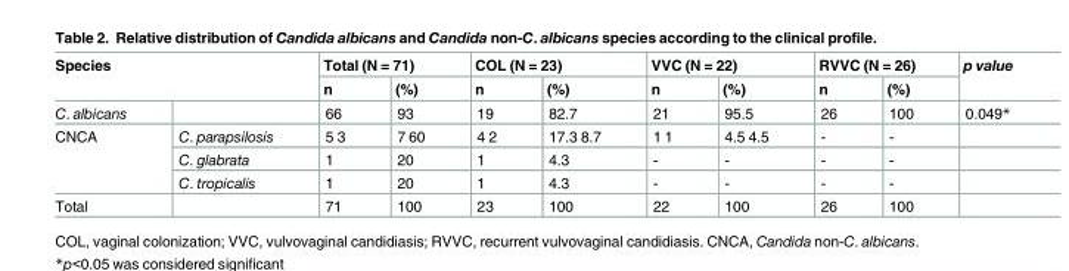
<table><thead><tr><td rowspan="2" colspan="2">Species</td><td colspan="2">Total (N = 71)</td><td colspan="2">COL (N = 23)</td><td colspan="2">VVC (N = 22)</td><td colspan="2">RVVC (N = 26)</td><td rowspan="3">p value 0.049*</td></tr><tr><td rowspan="2">n 66</td><td rowspan="2">(%) 93</td><td rowspan="2">n 19</td><td rowspan="2">(%) 82.7</td><td rowspan="2">n 21</td><td rowspan="2">(%) 95.5</td><td rowspan="2">n 26</td><td rowspan="2">(%) 100</td></tr><tr><td>C. albicans</td><td></td></tr></thead><tbody><tr><td rowspan="3">CNCA</td><td>C. parapsilosis</td><td>5 3</td><td>7 60</td><td>4 2</td><td>17.3 8.7</td><td>1 1</td><td>4.5 4.5</td><td>-</td><td>-</td><td></td></tr><tr><td>C. glabrata</td><td>1</td><td>20</td><td>1</td><td>4.3</td><td>-</td><td>-</td><td>-</td><td>-</td><td></td></tr><tr><td>C. tropicalis</td><td>1</td><td>20</td><td>1</td><td>4.3</td><td>-</td><td>-</td><td>-</td><td>-</td><td></td></tr><tr><td>Total</td><td></td><td>71</td><td>100</td><td>23</td><td>100</td><td>22</td><td>100</td><td>26</td><td>100</td><td></td></tr></tbody></table>